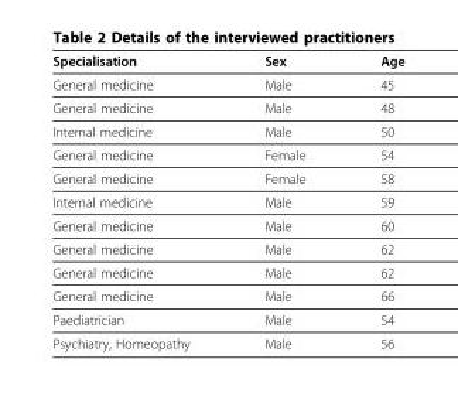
<table><thead><tr><td>Specialisation</td><td>Sex</td><td>Age</td></tr></thead><tbody><tr><td>General medicine</td><td>Male</td><td>45</td></tr><tr><td>General medicine</td><td>Male</td><td>48</td></tr><tr><td>Internal medicine</td><td>Male</td><td>50</td></tr><tr><td>General medicine</td><td>Female</td><td>54</td></tr><tr><td>General medicine</td><td>Female</td><td>58</td></tr><tr><td>Internal medicine</td><td>Male</td><td>59</td></tr><tr><td>General medicine</td><td>Male</td><td>60</td></tr><tr><td>General medicine</td><td>Male</td><td>62</td></tr><tr><td>General medicine</td><td>Male</td><td>62</td></tr><tr><td>General medicine</td><td>Male</td><td>66</td></tr><tr><td>Paediatrician</td><td>Male</td><td>54</td></tr><tr><td>Psychiatry, Homeopathy</td><td>Male</td><td>56</td></tr></tbody></table>